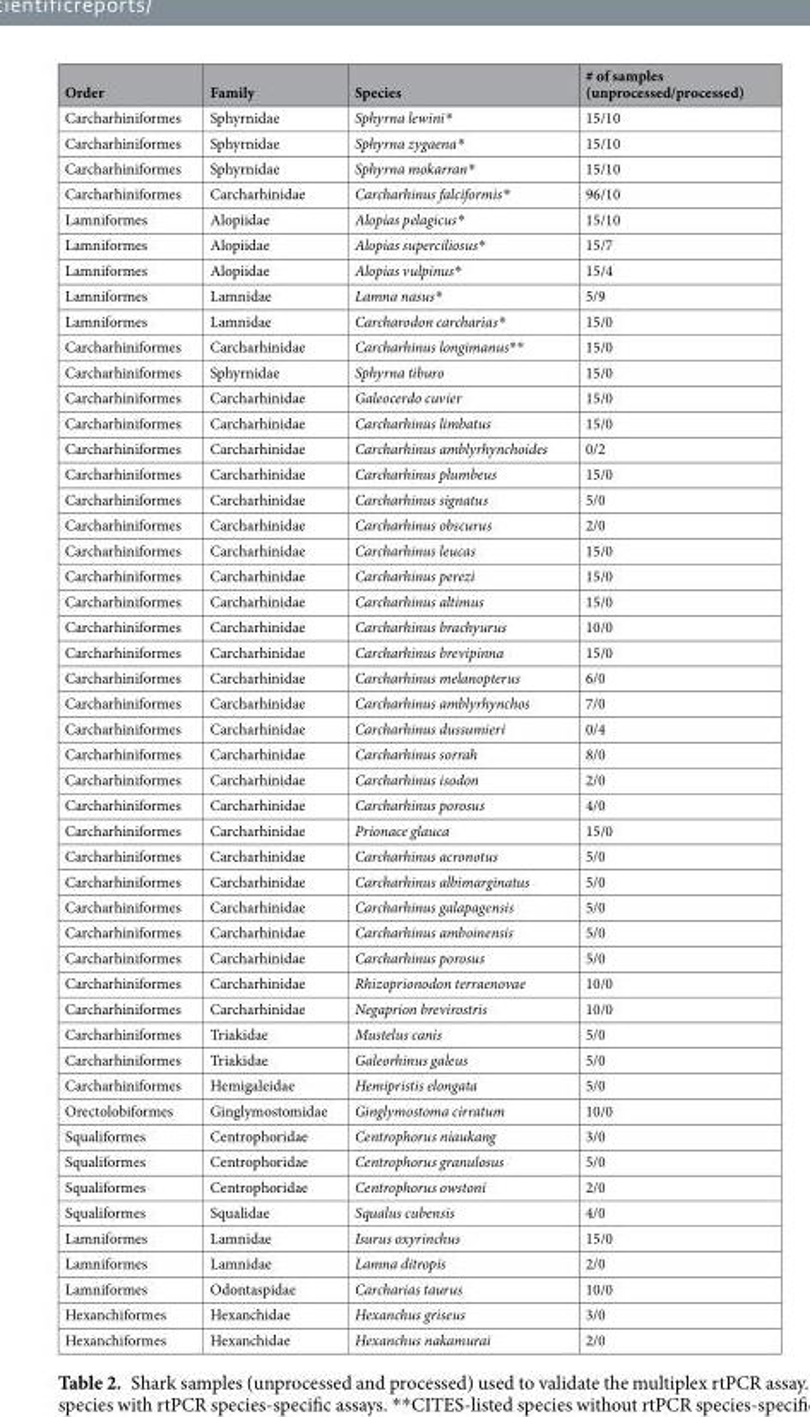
<table><thead><tr><td>Order</td><td>Family</td><td>Species</td><td># of samples (unprocessed/processed)</td></tr></thead><tbody><tr><td>Carcharhiniformes</td><td>Sphyrnidae</td><td>Sphyrna lewini*</td><td>15/10</td></tr><tr><td>Carcharhiniformes</td><td>Sphyrnidae</td><td>Sphyrna zygaena*</td><td>15/10</td></tr><tr><td>Carcharhiniformes</td><td>Sphyrnidae</td><td>Sphyrna mokarran*</td><td>15/10</td></tr><tr><td>Carcharhiniformes</td><td>Carcharhinidae</td><td>Carcharhinus falciformis*</td><td>96/10</td></tr><tr><td>Lamniformes</td><td>Alopiidae</td><td>Alopias pelagicus*</td><td>15/10</td></tr><tr><td>Lamniformes</td><td>Alopiidae</td><td>Alopias superciliosus*</td><td>15/7</td></tr><tr><td>Lamniformes</td><td>Alopiidae</td><td>Alopias vulpinus*</td><td>15/4</td></tr><tr><td>Lamniformes</td><td>Lamnidae</td><td>Lamna nasus*</td><td>5/9</td></tr><tr><td>Lamniformes</td><td>Lamnidae</td><td>Carcharodon carcharias*</td><td>15/0</td></tr><tr><td>Carcharhiniformes</td><td>Carcharhinidae</td><td>Carcharhinus longimanus**</td><td>15/0</td></tr><tr><td>Carcharhiniformes</td><td>Sphyrnidae</td><td>Sphyrna tiburo</td><td>15/0</td></tr><tr><td>Carcharhiniformes</td><td>Carcharhinidae</td><td>Galeocerdo cuvier</td><td>15/0</td></tr><tr><td>Carcharhiniformes</td><td>Carcharhinidae</td><td>Carcharhinus limbatus</td><td>15/0</td></tr><tr><td>Carcharhiniformes</td><td>Carcharhinidae</td><td>Carcharhinus amblyrhynchoides</td><td>0/2</td></tr><tr><td>Carcharhiniformes</td><td>Carcharhinidae</td><td>Carcharhinus plumbeus</td><td>15/0</td></tr><tr><td>Carcharhiniformes</td><td>Carcharhinidae</td><td>Carcharhinus signatus</td><td>5/0</td></tr><tr><td>Carcharhiniformes</td><td>Carcharhinidae</td><td>Carcharhinus obscurus</td><td>2/0</td></tr><tr><td>Carcharhiniformes</td><td>Carcharhinidae</td><td>Carcharhinus leucas</td><td>15/0</td></tr><tr><td>Carcharhiniformes</td><td>Carcharhinidae</td><td>Carcharhinus perezi</td><td>15/0</td></tr><tr><td>Carcharhiniformes</td><td>Carcharhinidae</td><td>Carcharhinus altimus</td><td>15/0</td></tr><tr><td>Carcharhiniformes</td><td>Carcharhinidae</td><td>Carcharhinus brachyurus</td><td>10/0</td></tr><tr><td>Carcharhiniformes</td><td>Carcharhinidae</td><td>Carcharhinus brevipinna</td><td>15/0</td></tr><tr><td>Carcharhiniformes</td><td>Carcharhinidae</td><td>Carcharhinus melanopterus</td><td>6/0</td></tr><tr><td>Carcharhiniformes</td><td>Carcharhinidae</td><td>Carcharhinus amblyrhynchos</td><td>7/0</td></tr><tr><td>Carcharhiniformes</td><td>Carcharhinidae</td><td>Carcharhinus dussumieri</td><td>0/4</td></tr><tr><td>Carcharhiniformes</td><td>Carcharhinidae</td><td>Carcharhinus sorrah</td><td>8/0</td></tr><tr><td>Carcharhiniformes</td><td>Carcharhinidae</td><td>Carcharhinus isodon</td><td>2/0</td></tr><tr><td>Carcharhiniformes</td><td>Carcharhinidae</td><td>Carcharhinus porosus</td><td>4/0</td></tr><tr><td>Carcharhiniformes</td><td>Carcharhinidae</td><td>Prionace glauca</td><td>15/0</td></tr><tr><td>Carcharhiniformes</td><td>Carcharhinidae</td><td>Carcharhinus acronotus</td><td>5/0</td></tr><tr><td>Carcharhiniformes</td><td>Carcharhinidae</td><td>Carcharhinus albimarginatus</td><td>5/0</td></tr><tr><td>Carcharhiniformes</td><td>Carcharhinidae</td><td>Carcharhinus galapagensis</td><td>5/0</td></tr><tr><td>Carcharhiniformes</td><td>Carcharhinidae</td><td>Carcharhinus amboinensis</td><td>5/0</td></tr><tr><td>Carcharhiniformes</td><td>Carcharhinidae</td><td>Carcharhinus porosus</td><td>5/0</td></tr><tr><td>Carcharhiniformes</td><td>Carcharhinidae</td><td>Rhizoprionodon terraenovae</td><td>10/0</td></tr><tr><td>Carcharhiniformes</td><td>Carcharhinidae</td><td>Negaprion brevirostris</td><td>10/0</td></tr><tr><td>Carcharhiniformes</td><td>Triakidae</td><td>Mustelus canis</td><td>5/0</td></tr><tr><td>Carcharhiniformes</td><td>Triakidae</td><td>Galeorhinus galeus</td><td>5/0</td></tr><tr><td>Carcharhiniformes</td><td>Hemigaleidae</td><td>Hemipristis elongata</td><td>5/0</td></tr><tr><td>Orectolobiformes</td><td>Ginglymostomidae</td><td>Ginglymostoma cirratum</td><td>10/0</td></tr><tr><td>Squaliformes</td><td>Centrophoridae</td><td>Centrophorus niaukang</td><td>3/0</td></tr><tr><td>Squaliformes</td><td>Centrophoridae</td><td>Centrophorus granulosus</td><td>5/0</td></tr><tr><td>Squaliformes</td><td>Centrophoridae</td><td>Centrophorus owstoni</td><td>2/0</td></tr><tr><td>Squaliformes</td><td>Squalidae</td><td>Squalus cubensis</td><td>4/0</td></tr><tr><td>Lamniformes</td><td>Lamnidae</td><td>Isurus oxyrinchus</td><td>15/0</td></tr><tr><td>Lamniformes</td><td>Lamnidae</td><td>Lamna ditropis</td><td>2/0</td></tr><tr><td>Lamniformes</td><td>Odontaspidae</td><td>Carcharias taurus</td><td>10/0</td></tr><tr><td>Hexanchiformes</td><td>Hexanchidae</td><td>Hexanchus griseus</td><td>3/0</td></tr><tr><td>Hexanchiformes</td><td>Hexanchidae</td><td>Hexanchus nakamurai</td><td>2/0</td></tr></tbody></table>